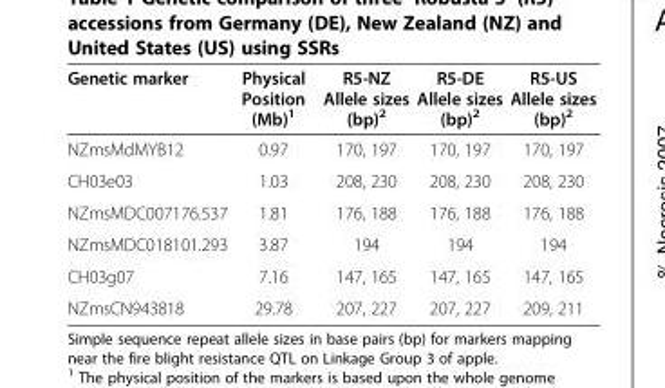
<table><thead><tr><td>Genetic marker</td><td>Physical Position (Mb)<sup>1</sup></td><td>R5-NZ Allele sizes (bp)<sup>2</sup></td><td>R5-DE Allele sizes (bp)<sup>2</sup></td><td>R5-US Allele sizes (bp)<sup>2</sup></td></tr></thead><tbody><tr><td>NZmsMdMYB12</td><td>0.97</td><td>170, 197</td><td>170, 197</td><td>170, 197</td></tr><tr><td>CH03e03</td><td>1.03</td><td>208, 230</td><td>208, 230</td><td>208, 230</td></tr><tr><td>NZmsMDC007176.537</td><td>1.81</td><td>176, 188</td><td>176, 188</td><td>176, 188</td></tr><tr><td>NZmsMDC018101.293</td><td>3.87</td><td>194</td><td>194</td><td>194</td></tr><tr><td>CH03g07</td><td>7.16</td><td>147, 165</td><td>147, 165</td><td>147, 165</td></tr><tr><td>NZmsCN943818</td><td>29.78</td><td>207, 227</td><td>207, 227</td><td>209, 211</td></tr></tbody></table>